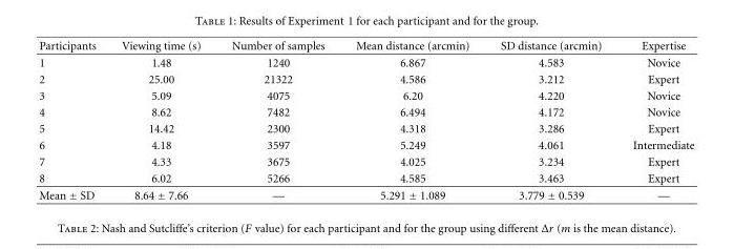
<table><thead><tr><td>Participants</td><td>Viewing time (s)</td><td>Number of samples</td><td>Mean distance (arcmin)</td><td>SD distance (arcmin)</td><td>Expertise</td></tr></thead><tbody><tr><td>1</td><td>1.48</td><td>1240</td><td>6.867</td><td>4.583</td><td>Novice</td></tr><tr><td>2</td><td>25.00</td><td>21322</td><td>4.586</td><td>3.212</td><td>Expert</td></tr><tr><td>3</td><td>5.09</td><td>4075</td><td>6.20</td><td>4.220</td><td>Novice</td></tr><tr><td>4</td><td>8.62</td><td>7482</td><td>6.494</td><td>4.172</td><td>Novice</td></tr><tr><td>5</td><td>14.42</td><td>2300</td><td>4.318</td><td>3.286</td><td>Expert</td></tr><tr><td>6</td><td>4.18</td><td>3597</td><td>5.249</td><td>4.061</td><td>Intermediate</td></tr><tr><td>7</td><td>4.33</td><td>3675</td><td>4.025</td><td>3.234</td><td>Expert</td></tr><tr><td>8</td><td>6.02</td><td>5266</td><td>4.585</td><td>3.463</td><td>Expert</td></tr><tr><td>Mean ± SD</td><td>8.64 ± 7.66</td><td>—</td><td>5.291 ± 1.089</td><td>3.779 ± 0.539</td><td>—</td></tr></tbody></table>